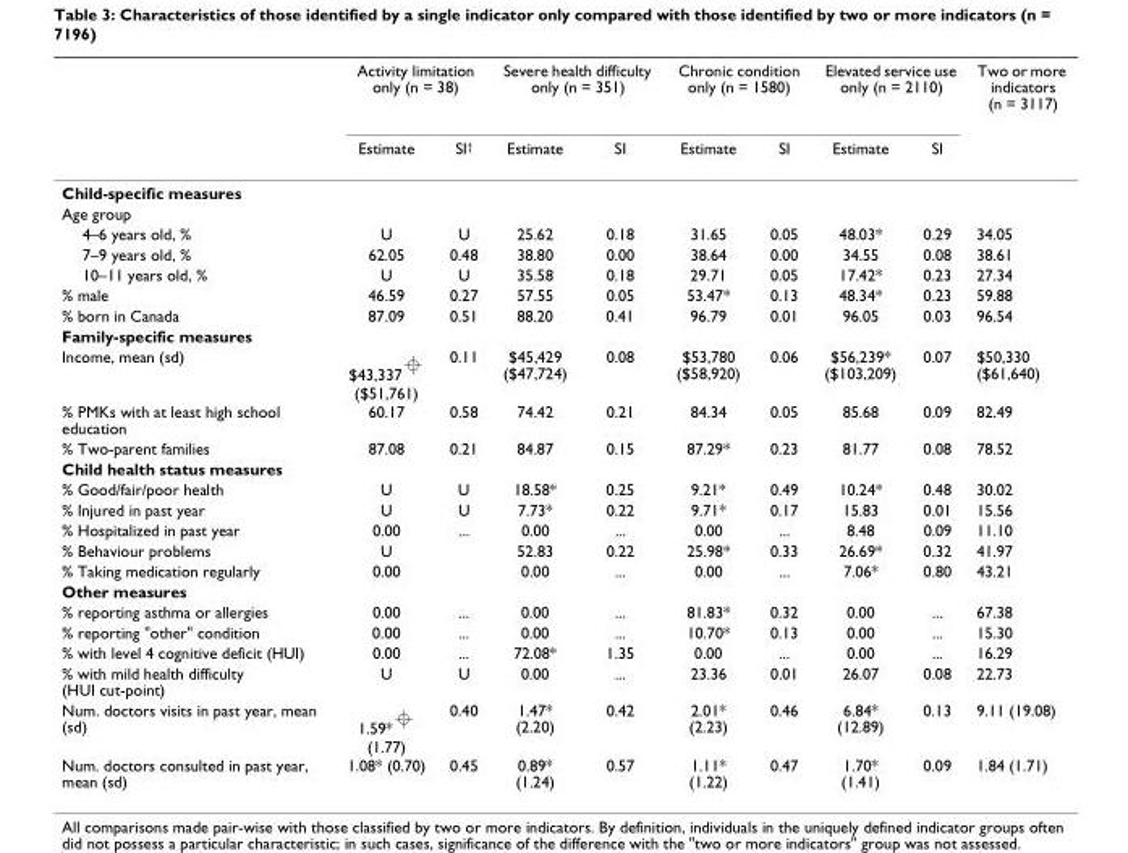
<table><thead><tr><td rowspan="2"></td><td colspan="2">Activity limitation only (n = 38)</td><td colspan="2">Severe health difficulty only (n = 351)</td><td colspan="2">Chronic condition only (n = 1580)</td><td colspan="2">Elevated service use only (n = 2110)</td><td rowspan="2">Two or more indicators (n = 3117)</td></tr><tr><td>Estimate</td><td>SI<sup>†</sup></td><td>Estimate</td><td>SI</td><td>Estimate</td><td>SI</td><td>Estimate</td><td>SI</td></tr></thead><tbody><tr><td colspan="10">Child-specific measures</td></tr><tr><td colspan="10">Age group</td></tr><tr><td>4–6 years old, %</td><td>U</td><td>U</td><td>25.62</td><td>0.18</td><td>31.65</td><td>0.05</td><td>48.03*</td><td>0.29</td><td>34.05</td></tr><tr><td>7–9 years old, %</td><td>62.05</td><td>0.48</td><td>38.80</td><td>0.00</td><td>38.64</td><td>0.00</td><td>34.55</td><td>0.08</td><td>38.61</td></tr><tr><td>10–11 years old, %</td><td>U</td><td>U</td><td>35.58</td><td>0.18</td><td>29.71</td><td>0.05</td><td>17.42*</td><td>0.23</td><td>27.34</td></tr><tr><td>% male</td><td>46.59</td><td>0.27</td><td>57.55</td><td>0.05</td><td>53.47*</td><td>0.13</td><td>48.34*</td><td>0.23</td><td>59.88</td></tr><tr><td>% born in Canada</td><td>87.09</td><td>0.51</td><td>88.20</td><td>0.41</td><td>96.79</td><td>0.01</td><td>96.05</td><td>0.03</td><td>96.54</td></tr><tr><td colspan="10">Family-specific measures</td></tr><tr><td>Income, mean (sd)</td><td>$43,337 ($51,761) �</td><td>0.11</td><td>$45,429 ($47,724)</td><td>0.08</td><td>$53,780 ($58,920)</td><td>0.06</td><td>$56,239* ($103,209)</td><td>0.07</td><td>$50,330 ($61,640)</td></tr><tr><td>% PMKs with at least high school education</td><td>60.17</td><td>0.58</td><td>74.42</td><td>0.21</td><td>84.34</td><td>0.05</td><td>85.68</td><td>0.09</td><td>82.49</td></tr><tr><td>% Two-parent families</td><td>87.08</td><td>0.21</td><td>84.87</td><td>0.15</td><td>87.29*</td><td>0.23</td><td>81.77</td><td>0.08</td><td>78.52</td></tr><tr><td colspan="10">Child health status measures</td></tr><tr><td>% Good/fair/poor health</td><td>U</td><td>U</td><td>18.58*</td><td>0.25</td><td>9.21*</td><td>0.49</td><td>10.24*</td><td>0.48</td><td>30.02</td></tr><tr><td>% Injured in past year</td><td>U</td><td>U</td><td>7.73*</td><td>0.22</td><td>9.71*</td><td>0.17</td><td>15.83</td><td>0.01</td><td>15.56</td></tr><tr><td>% Hospitalized in past year</td><td>0.00</td><td>...</td><td>0.00</td><td>...</td><td>0.00</td><td>...</td><td>8.48</td><td>0.09</td><td>11.10</td></tr><tr><td>% Behaviour problems</td><td>U</td><td></td><td>52.83</td><td>0.22</td><td>25.98*</td><td>0.33</td><td>26.69*</td><td>0.32</td><td>41.97</td></tr><tr><td>% Taking medication regularly</td><td>0.00</td><td></td><td>0.00</td><td>...</td><td>0.00</td><td>...</td><td>7.06*</td><td>0.80</td><td>43.21</td></tr><tr><td colspan="10">Other measures</td></tr><tr><td>% reporting asthma or allergies</td><td>0.00</td><td>...</td><td>0.00</td><td>...</td><td>81.83*</td><td>0.32</td><td>0.00</td><td>...</td><td>67.38</td></tr><tr><td>% reporting &quot;other&quot; condition</td><td>0.00</td><td>...</td><td>0.00</td><td>...</td><td>10.70*</td><td>0.13</td><td>0.00</td><td>...</td><td>15.30</td></tr><tr><td>% with level 4 cognitive deficit (HUI)</td><td>0.00</td><td>...</td><td>72.08*</td><td>1.35</td><td>0.00</td><td>...</td><td>0.00</td><td>...</td><td>16.29</td></tr><tr><td>% with mild health difficulty (HUI cut-point)</td><td>U</td><td>U</td><td>0.00</td><td>...</td><td>23.36</td><td>0.01</td><td>26.07</td><td>0.08</td><td>22.73</td></tr><tr><td>Num. doctors visits in past year, mean (sd)</td><td>1.59* (1.77) �</td><td>0.40</td><td>1.47* (2.20)</td><td>0.42</td><td>2.01* (2.23)</td><td>0.46</td><td>6.84* (12.89)</td><td>0.13</td><td>9.11 (19.08)</td></tr><tr><td>Num. doctors consulted in past year, mean (sd)</td><td>1.08* (0.70)</td><td>0.45</td><td>0.89* (1.24)</td><td>0.57</td><td>1.11* (1.22)</td><td>0.47</td><td>1.70* (1.41)</td><td>0.09</td><td>1.84 (1.71)</td></tr></tbody></table>